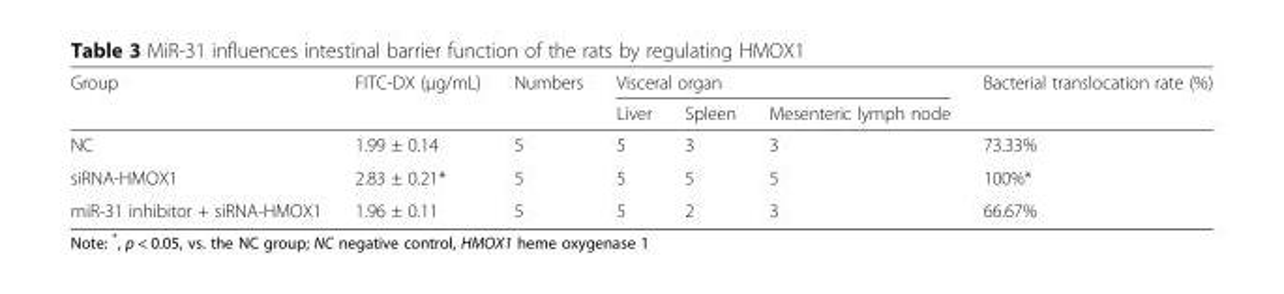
<table><thead><tr><td rowspan="2">Group</td><td rowspan="2">FITC-DX (μg/mL)</td><td rowspan="2">Numbers</td><td colspan="3">Visceral organ</td><td rowspan="2">Bacterial translocation rate (%)</td></tr><tr><td>Liver</td><td>Spleen</td><td>Mesenteric lymph node</td></tr></thead><tbody><tr><td>NC</td><td>1.99 ± 0.14</td><td>5</td><td>5</td><td>3</td><td>3</td><td>73.33%</td></tr><tr><td>siRNA-HMOX1</td><td>2.83 ± 0.21*</td><td>5</td><td>5</td><td>5</td><td>5</td><td>100%*</td></tr><tr><td>miR-31 inhibitor + siRNA-HMOX1</td><td>1.96 ± 0.11</td><td>5</td><td>5</td><td>2</td><td>3</td><td>66.67%</td></tr></tbody></table>